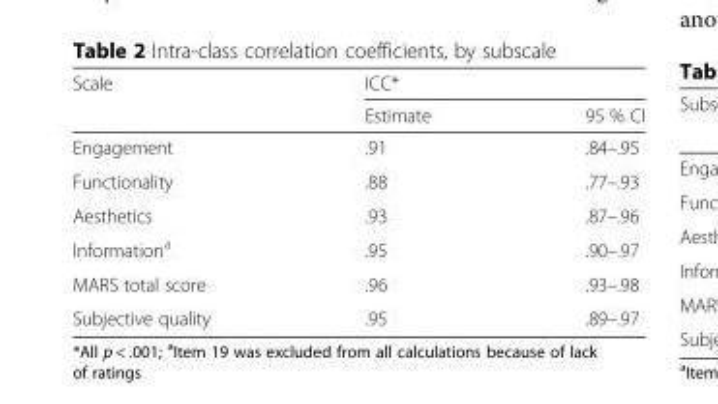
<table><thead><tr><td rowspan="2">Scale</td><td colspan="2">ICC*</td></tr><tr><td>Estimate</td><td>95 % CI</td></tr></thead><tbody><tr><td>Engagement</td><td>.91</td><td>.84–.95</td></tr><tr><td>Functionality</td><td>.88</td><td>.77–.93</td></tr><tr><td>Aesthetics</td><td>.93</td><td>.87–.96</td></tr><tr><td>Information<sup>a</sup></td><td>.95</td><td>.90–.97</td></tr><tr><td>MARS total score</td><td>.96</td><td>.93–.98</td></tr><tr><td>Subjective quality</td><td>.95</td><td>.89–.97</td></tr></tbody></table>